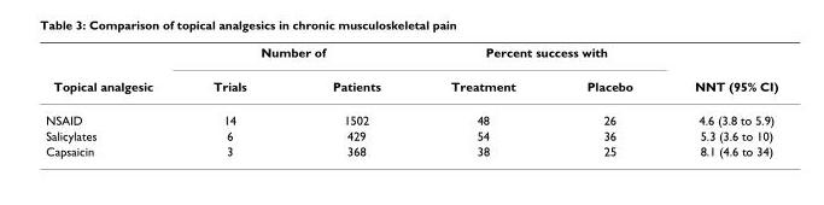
<table><thead><tr><td rowspan="2">Topical analgesic</td><td colspan="2">Number of</td><td colspan="2">Percent success with</td><td rowspan="2">NNT (95% CI)</td></tr><tr><td>Trials</td><td>Patients</td><td>Treatment</td><td>Placebo</td></tr></thead><tbody><tr><td>NSAID</td><td>14</td><td>1502</td><td>48</td><td>26</td><td>4.6 (3.8 to 5.9)</td></tr><tr><td>Salicylates</td><td>6</td><td>429</td><td>54</td><td>36</td><td>5.3 (3.6 to 10)</td></tr><tr><td>Capsaicin</td><td>3</td><td>368</td><td>38</td><td>25</td><td>8.1 (4.6 to 34)</td></tr></tbody></table>